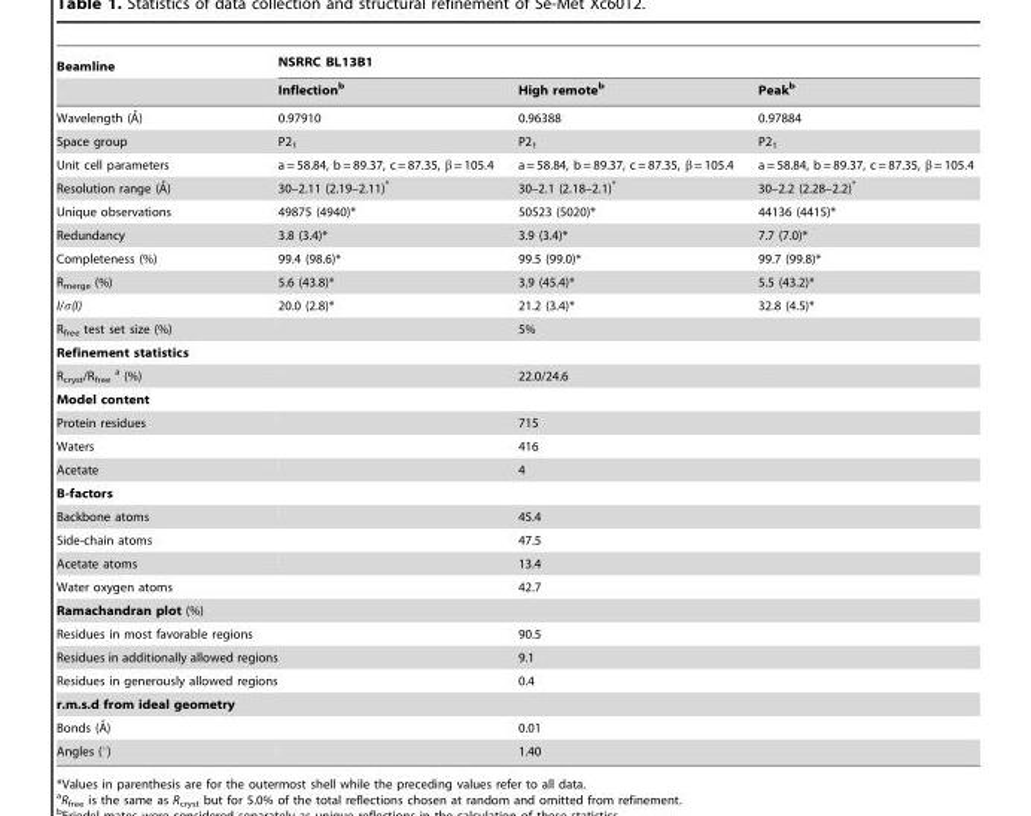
<table><thead><tr><td rowspan="2">Beamline</td><td colspan="3">NSRRC BL13B1</td></tr><tr><td>Inflection<sup>b</sup></td><td>High remote<sup>b</sup></td><td>Peak<sup>b</sup></td></tr></thead><tbody><tr><td>Wavelength (A˚)</td><td>0.97910</td><td>0.96388</td><td>0.97884</td></tr><tr><td>Space group</td><td>P2<sub>1</sub></td><td>P2<sub>1</sub></td><td>P2<sub>1</sub></td></tr><tr><td>Unit cell parameters</td><td>a = 58.84, b = 89.37, c = 87.35, β = 105.4</td><td>a = 58.84, b = 89.37, c = 87.35, β = 105.4</td><td>a = 58.84, b = 89.37, c = 87.35, β = 105.4</td></tr><tr><td>Resolution range (A˚)</td><td>30–2.11 (2.19–2.11)*</td><td>30–2.1 (2.18–2.1)*</td><td>30–2.2 (2.28–2.2)*</td></tr><tr><td>Unique observations</td><td>49875 (4940)*</td><td>50523 (5020)*</td><td>44136 (4415)*</td></tr><tr><td>Redundancy</td><td>3.8 (3.4)*</td><td>3.9 (3.4)*</td><td>7.7 (7.0)*</td></tr><tr><td>Completeness (%)</td><td>99.4 (98.6)*</td><td>99.5 (99.0)*</td><td>99.7 (99.8)*</td></tr><tr><td>R<sub>merge</sub> (%)</td><td>5.6 (43.8)*</td><td>3.9 (45.4)*</td><td>5.5 (43.2)*</td></tr><tr><td>I/σ(I)</td><td>20.0 (2.8)*</td><td>21.2 (3.4)*</td><td>32.8 (4.5)*</td></tr><tr><td>R<sub>free</sub> test set size (%)</td><td></td><td>5%</td><td></td></tr><tr><td colspan="4">Refinement statistics</td></tr><tr><td>R<sub>cryst</sub>/R<sub>free</sub> a (%)</td><td></td><td>22.0/24.6</td><td></td></tr><tr><td colspan="4">Model content</td></tr><tr><td>Protein residues</td><td></td><td>715</td><td></td></tr><tr><td>Waters</td><td></td><td>416</td><td></td></tr><tr><td>Acetate</td><td></td><td>4</td><td></td></tr><tr><td colspan="4">B-factors</td></tr><tr><td>Backbone atoms</td><td></td><td>45.4</td><td></td></tr><tr><td>Side-chain atoms</td><td></td><td>47.5</td><td></td></tr><tr><td>Acetate atoms</td><td></td><td>13.4</td><td></td></tr><tr><td>Water oxygen atoms</td><td></td><td>42.7</td><td></td></tr><tr><td colspan="4">Ramachandran plot (%)</td></tr><tr><td>Residues in most favorable regions</td><td></td><td>90.5</td><td></td></tr><tr><td>Residues in additionally allowed regions</td><td></td><td>9.1</td><td></td></tr><tr><td>Residues in generously allowed regions</td><td></td><td>0.4</td><td></td></tr><tr><td colspan="4">r.m.s.d from ideal geometry</td></tr><tr><td>Bonds (A˚)</td><td></td><td>0.01</td><td></td></tr><tr><td>Angles (°)</td><td></td><td>1.40</td><td></td></tr></tbody></table>